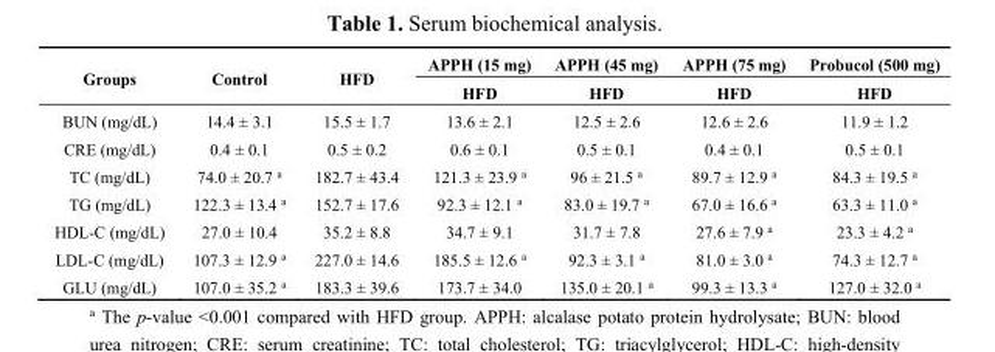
<table><thead><tr><td rowspan="2">Groups</td><td rowspan="2">Control</td><td rowspan="2">HFD</td><td rowspan="2">APPH (15 mg) HFD</td><td rowspan="2">APPH (45 mg) HFD</td><td rowspan="2">APPH (75 mg) HFD</td><td rowspan="2">Probucol (500 mg) HFD</td></tr><tr></tr></thead><tbody><tr><td>BUN (mg/dL)</td><td>14.4 ± 3.1</td><td>15.5 ± 1.7</td><td>13.6 ± 2.1</td><td>12.5 ± 2.6</td><td>12.6 ± 2.6</td><td>11.9 ± 1.2</td></tr><tr><td>CRE (mg/dL)</td><td>0.4 ± 0.1</td><td>0.5 ± 0.2</td><td>0.6 ± 0.1</td><td>0.5 ± 0.1</td><td>0.4 ± 0.1</td><td>0.5 ± 0.1</td></tr><tr><td>TC (mg/dL)</td><td>74.0 ± 20.7 <sup>a</sup></td><td>182.7 ± 43.4</td><td>121.3 ± 23.9 <sup>a</sup></td><td>96 ± 21.5 <sup>a</sup></td><td>89.7 ± 12.9 <sup>a</sup></td><td>84.3 ± 19.5 <sup>a</sup></td></tr><tr><td>TG (mg/dL)</td><td>122.3 ± 13.4 <sup>a</sup></td><td>152.7 ± 17.6</td><td>92.3 ± 12.1 <sup>a</sup></td><td>83.0 ± 19.7 <sup>a</sup></td><td>67.0 ± 16.6 <sup>a</sup></td><td>63.3 ± 11.0 <sup>a</sup></td></tr><tr><td>HDL-C (mg/dL)</td><td>27.0 ± 10.4</td><td>35.2 ± 8.8</td><td>34.7 ± 9.1</td><td>31.7 ± 7.8</td><td>27.6 ± 7.9 <sup>a</sup></td><td>23.3 ± 4.2 <sup>a</sup></td></tr><tr><td>LDL-C (mg/dL)</td><td>107.3 ± 12.9 <sup>a</sup></td><td>227.0 ± 14.6</td><td>185.5 ± 12.6 <sup>a</sup></td><td>92.3 ± 3.1 <sup>a</sup></td><td>81.0 ± 3.0 <sup>a</sup></td><td>74.3 ± 12.7 <sup>a</sup></td></tr><tr><td>GLU (mg/dL)</td><td>107.0 ± 35.2 <sup>a</sup></td><td>183.3 ± 39.6</td><td>173.7 ± 34.0</td><td>135.0 ± 20.1 <sup>a</sup></td><td>99.3 ± 13.3 <sup>a</sup></td><td>127.0 ± 32.0 <sup>a</sup></td></tr></tbody></table>